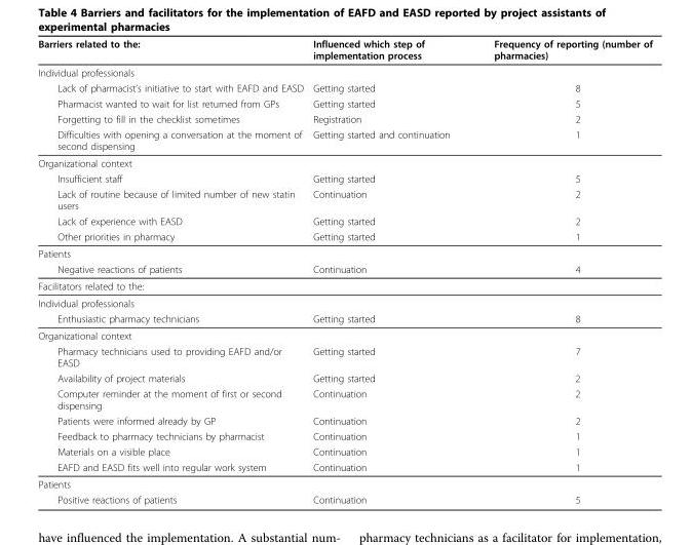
<table><thead><tr><td>Barriers related to the:</td><td>Influenced which step of implementation process</td><td>Frequency of reporting (number of pharmacies)</td></tr></thead><tbody><tr><td colspan="3">Individual professionals</td></tr><tr><td>Lack of pharmacist’s initiative to start with EAFD and EASD</td><td>Getting started</td><td>8</td></tr><tr><td>Pharmacist wanted to wait for list returned from GPs</td><td>Getting started</td><td>5</td></tr><tr><td>Forgetting to fill in the checklist sometimes</td><td>Registration</td><td>2</td></tr><tr><td>Difficulties with opening a conversation at the moment of second dispensing</td><td>Getting started and continuation</td><td>1</td></tr><tr><td colspan="3">Organizational context</td></tr><tr><td>Insufficient staff</td><td>Getting started</td><td>5</td></tr><tr><td>Lack of routine because of limited number of new statin users</td><td>Continuation</td><td>2</td></tr><tr><td>Lack of experience with EASD</td><td>Getting started</td><td>2</td></tr><tr><td>Other priorities in pharmacy</td><td>Getting started</td><td>1</td></tr><tr><td colspan="3">Patients</td></tr><tr><td>Negative reactions of patients</td><td>Continuation</td><td>4</td></tr><tr><td colspan="3">Facilitators related to the:</td></tr><tr><td colspan="3">Individual professionals</td></tr><tr><td>Enthusiastic pharmacy technicians</td><td>Getting started</td><td>8</td></tr><tr><td colspan="3">Organizational context</td></tr><tr><td>Pharmacy technicians used to providing EAFD and/or EASD</td><td>Getting started</td><td>7</td></tr><tr><td>Availability of project materials</td><td>Getting started</td><td>2</td></tr><tr><td>Computer reminder at the moment of first or second dispensing</td><td>Continuation</td><td>2</td></tr><tr><td>Patients were informed already by GP</td><td>Continuation</td><td>2</td></tr><tr><td>Feedback to pharmacy technicians by pharmacist</td><td>Continuation</td><td>1</td></tr><tr><td>Materials on a visible place</td><td>Continuation</td><td>1</td></tr><tr><td>EAFD and EASD fits well into regular work system</td><td>Continuation</td><td>1</td></tr><tr><td colspan="3">Patients</td></tr><tr><td>Positive reactions of patients</td><td>Continuation</td><td>5</td></tr></tbody></table>